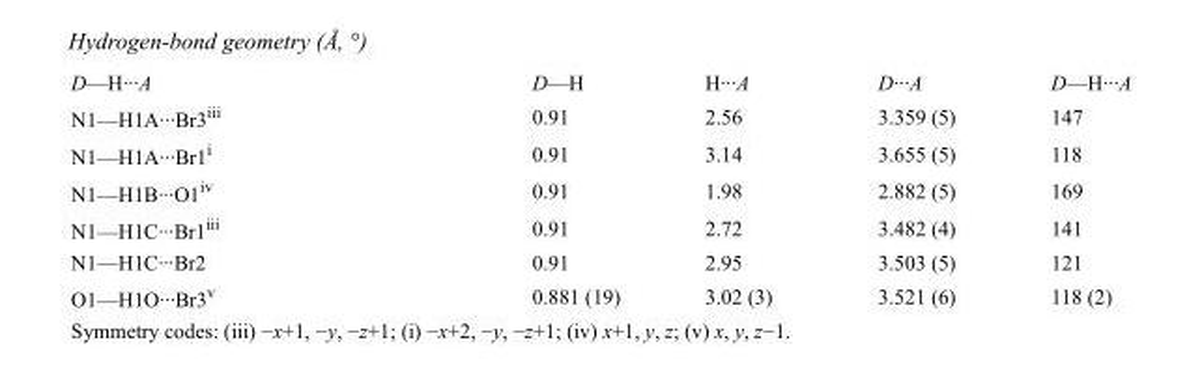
<table><tbody><tr><td>D—H···A</td><td>D—H</td><td>H···A</td><td>D···A</td><td>D—H···A</td></tr><tr><td>N1—H1A···Br3<sup>iii</sup></td><td>0.91</td><td>2.56</td><td>3.359 (5)</td><td>147</td></tr><tr><td>N1—H1A···Br1<sup>i</sup></td><td>0.91</td><td>3.14</td><td>3.655 (5)</td><td>118</td></tr><tr><td>N1—H1B···O1<sup>iv</sup></td><td>0.91</td><td>1.98</td><td>2.882 (5)</td><td>169</td></tr><tr><td>N1—H1C···Br1<sup>iii</sup></td><td>0.91</td><td>2.72</td><td>3.482 (4)</td><td>141</td></tr><tr><td>N1—H1C···Br2</td><td>0.91</td><td>2.95</td><td>3.503 (5)</td><td>121</td></tr><tr><td>O1—H1O···Br3<sup>v</sup></td><td>0.881 (19)</td><td>3.02 (3)</td><td>3.521 (6)</td><td>118 (2)</td></tr></tbody></table>